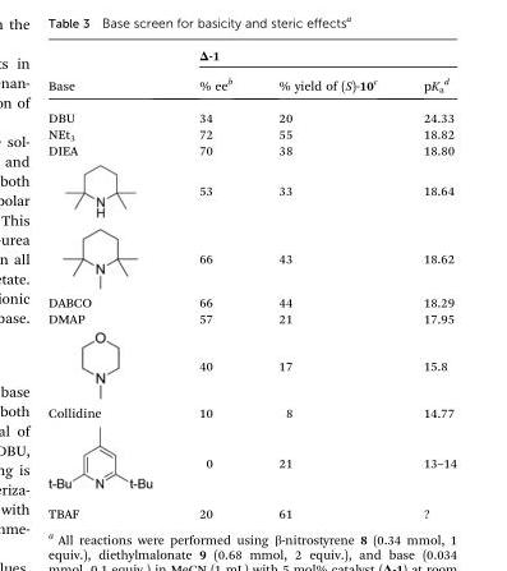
<table><thead><tr><td rowspan="2">Base</td><td colspan="3">Δ-1</td></tr><tr><td>% ee<sup>b</sup></td><td>% yield of (S)-10<sup>c</sup></td><td>pK<sub>a</sub> <sup>d</sup></td></tr></thead><tbody><tr><td>DBU</td><td>34</td><td>20</td><td>24.33</td></tr><tr><td>NEt<sub>3</sub></td><td>72</td><td>55</td><td>18.82</td></tr><tr><td rowspan="3">DIEA</td><td>70</td><td>38</td><td>18.80</td></tr><tr><td>53</td><td>33</td><td>18.64</td></tr><tr><td>66</td><td>43</td><td>18.62</td></tr><tr><td>DABCO</td><td>66</td><td>44</td><td>18.29</td></tr><tr><td rowspan="2">DMAP</td><td>57</td><td>21</td><td>17.95</td></tr><tr><td>40</td><td>17</td><td>15.8</td></tr><tr><td rowspan="2">Collidine</td><td>10</td><td>8</td><td>14.77</td></tr><tr><td>0</td><td>21</td><td>13–14</td></tr><tr><td>TBAF</td><td>20</td><td>61</td><td>?</td></tr></tbody></table>